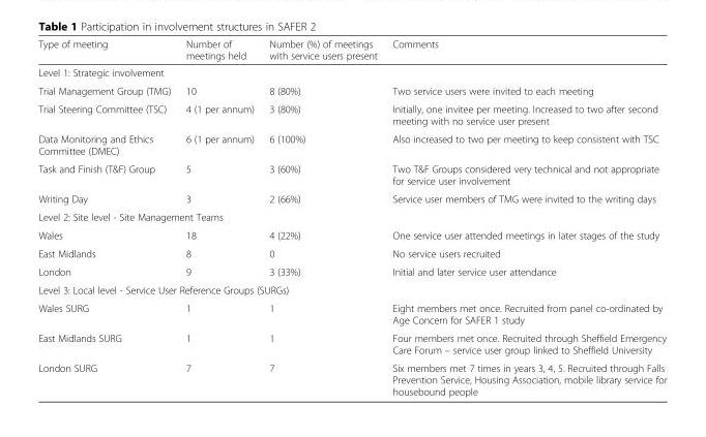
<table><thead><tr><td>Type of meeting</td><td>Number of meetings held</td><td>Number (%) of meetings with service users present</td><td>Comments</td></tr></thead><tbody><tr><td colspan="4">Level 1: Strategic involvement</td></tr><tr><td>Trial Management Group (TMG)</td><td>10</td><td>8 (80%)</td><td>Two service users were invited to each meeting</td></tr><tr><td>Trial Steering Committee (TSC)</td><td>4 (1 per annum)</td><td>3 (80%)</td><td>Initially, one invitee per meeting. Increased to two after second meeting with no service user present</td></tr><tr><td>Data Monitoring and Ethics Committee (DMEC)</td><td>6 (1 per annum)</td><td>6 (100%)</td><td>Also increased to two per meeting to keep consistent with TSC</td></tr><tr><td>Task and Finish (T&amp;F) Group</td><td>5</td><td>3 (60%)</td><td>Two T&amp;F Groups considered very technical and not appropriate for service user involvement</td></tr><tr><td>Writing Day</td><td>3</td><td>2 (66%)</td><td>Service user members of TMG were invited to the writing days</td></tr><tr><td colspan="4">Level 2: Site level - Site Management Teams</td></tr><tr><td>Wales</td><td>18</td><td>4 (22%)</td><td>One service user attended meetings in later stages of the study</td></tr><tr><td>East Midlands</td><td>8</td><td>0</td><td>No service users recruited</td></tr><tr><td>London</td><td>9</td><td>3 (33%)</td><td>Initial and later service user attendance</td></tr><tr><td colspan="4">Level 3: Local level - Service User Reference Groups (SURGs)</td></tr><tr><td>Wales SURG</td><td>1</td><td>1</td><td>Eight members met once. Recruited from panel co-ordinated by Age Concern for SAFER 1 study</td></tr><tr><td>East Midlands SURG</td><td>1</td><td>1</td><td>Four members met once. Recruited through Sheffield Emergency Care Forum – service user group linked to Sheffield University</td></tr><tr><td>London SURG</td><td>7</td><td>7</td><td>Six members met 7 times in years 3, 4, 5. Recruited through Falls Prevention Service, Housing Association, mobile library service for housebound people</td></tr></tbody></table>